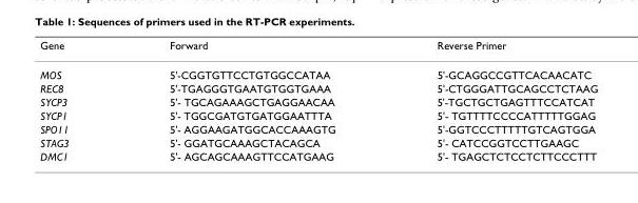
<table><thead><tr><td>Gene</td><td>Forward</td><td>Reverse Primer</td></tr></thead><tbody><tr><td>MOS</td><td>5&#x27;-CGGTGTTCCTGTGGCCATAA</td><td>5&#x27;-GCAGGCCGTTCACAACATC</td></tr><tr><td>REC8</td><td>5&#x27;-TGAGGGTGAATGTGGTGAAA</td><td>5&#x27;-CTGGGATTGCAGCCTCTAAG</td></tr><tr><td>SYCP3</td><td>5&#x27;- TGCAGAAAGCTGAGGAACAA</td><td>5&#x27;-TGCTGCTGAGTTTCCATCAT</td></tr><tr><td>SYCP1</td><td>5&#x27;- TGGCGATGTGATGGAATTTA</td><td>5&#x27;- TGTTTTCCCCATTTTTGGAG</td></tr><tr><td>SPO11</td><td>5&#x27;- AGGAAGATGGCACCAAAGTG</td><td>5&#x27;-GGTCCCTTTTTGTCAGTGGA</td></tr><tr><td>STAG3</td><td>5&#x27;- GGATGCAAAGCTACAGCA</td><td>5&#x27;- CATCCGGTCCTTGAAGC</td></tr><tr><td>DMC1</td><td>5&#x27;- AGCAGCAAAGTTCCATGAAG</td><td>5&#x27;- TGAGCTCTCCTCTTCCCTTT</td></tr></tbody></table>